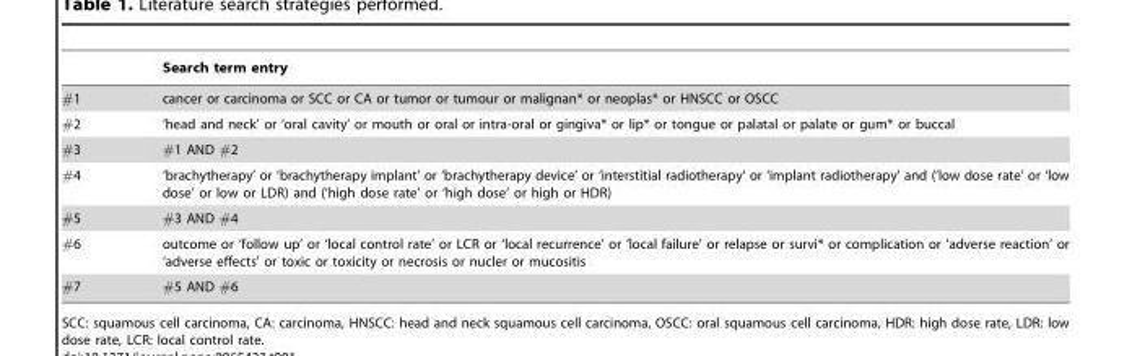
<table><thead><tr><td></td><td>Search term entry</td></tr></thead><tbody><tr><td>#1</td><td>cancer or carcinoma or SCC or CA or tumor or tumour or malignan* or neoplas* or HNSCC or OSCC</td></tr><tr><td>#2</td><td>‘head and neck’ or ‘oral cavity’ or mouth or oral or intra-oral or gingiva* or lip* or tongue or palatal or palate or gum* or buccal</td></tr><tr><td>#3</td><td>#1 AND #2</td></tr><tr><td>#4</td><td>‘brachytherapy’ or ‘brachytherapy implant’ or ‘brachytherapy device’ or ‘interstitial radiotherapy’ or ‘implant radiotherapy’ and (‘low dose rate’ or ‘low dose’ or low or LDR) and (‘high dose rate’ or ‘high dose’ or high or HDR)</td></tr><tr><td>#5</td><td>#3 AND #4</td></tr><tr><td>#6</td><td>outcome or ‘follow up’ or ‘local control rate’ or LCR or ‘local recurrence’ or ‘local failure’ or relapse or survi* or complication or ‘adverse reaction’ or ‘adverse effects’ or toxic or toxicity or necrosis or nucler or mucositis</td></tr><tr><td>#7</td><td>#5 AND #6</td></tr></tbody></table>